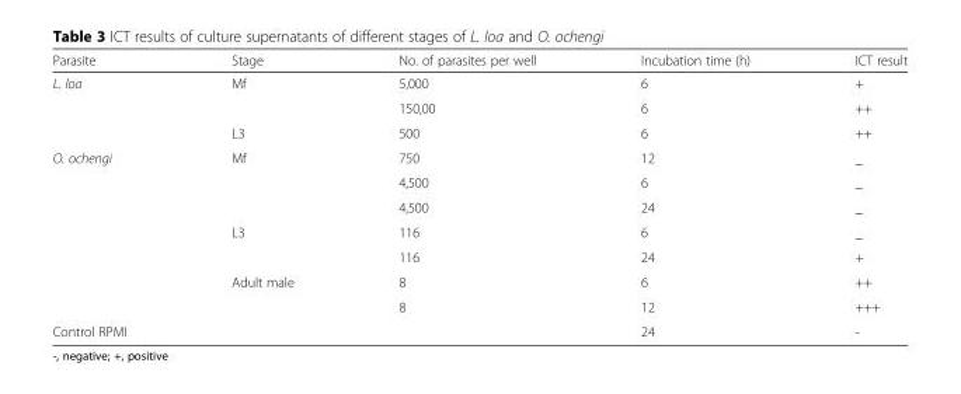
<table><thead><tr><td>Parasite</td><td>Stage</td><td>No. of parasites per well</td><td>Incubation time (h)</td><td>ICT result</td></tr></thead><tbody><tr><td rowspan="3">L. loa</td><td>Mf</td><td>5,000</td><td>6</td><td>+</td></tr><tr><td></td><td>150,00</td><td>6</td><td>++</td></tr><tr><td>L3</td><td>500</td><td>6</td><td>++</td></tr><tr><td rowspan="7">O. ochengi</td><td>Mf</td><td>750</td><td>12</td><td>_</td></tr><tr><td></td><td>4,500</td><td>6</td><td>_</td></tr><tr><td></td><td>4,500</td><td>24</td><td>_</td></tr><tr><td>L3</td><td>116</td><td>6</td><td>_</td></tr><tr><td></td><td>116</td><td>24</td><td>+</td></tr><tr><td>Adult male</td><td>8</td><td>6</td><td>++</td></tr><tr><td></td><td>8</td><td>12</td><td>+++</td></tr><tr><td>Control RPMI</td><td colspan="2"></td><td>24</td><td>-</td></tr></tbody></table>